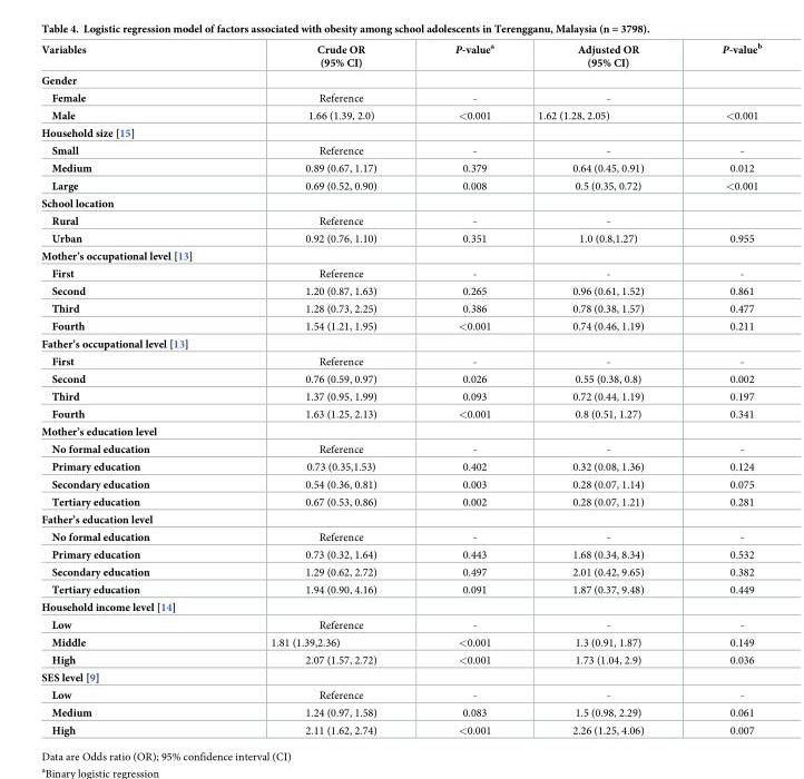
<table><thead><tr><td>Variables</td><td>Crude OR (95% CI)</td><td>P-value<sup>a</sup></td><td>Adjusted OR (95% CI)</td><td>P-value<sup>b</sup></td></tr></thead><tbody><tr><td colspan="5">Gender</td></tr><tr><td>Female</td><td>Reference</td><td>-</td><td>-</td><td></td></tr><tr><td>Male</td><td>1.66 (1.39, 2.0)</td><td>&lt;0.001</td><td>1.62 (1.28, 2.05)</td><td>&lt;0.001</td></tr><tr><td colspan="5">Household size [15]</td></tr><tr><td>Small</td><td>Reference</td><td>-</td><td>-</td><td>-</td></tr><tr><td>Medium</td><td>0.89 (0.67, 1.17)</td><td>0.379</td><td>0.64 (0.45, 0.91)</td><td>0.012</td></tr><tr><td>Large</td><td>0.69 (0.52, 0.90)</td><td>0.008</td><td>0.5 (0.35, 0.72)</td><td>&lt;0.001</td></tr><tr><td colspan="5">School location</td></tr><tr><td>Rural</td><td>Reference</td><td>-</td><td>-</td><td></td></tr><tr><td>Urban</td><td>0.92 (0.76, 1.10)</td><td>0.351</td><td>1.0 (0.8,1.27)</td><td>0.955</td></tr><tr><td colspan="5">Mother’s occupational level [13]</td></tr><tr><td>First</td><td>Reference</td><td>-</td><td>-</td><td>-</td></tr><tr><td>Second</td><td>1.20 (0.87, 1.63)</td><td>0.265</td><td>0.96 (0.61, 1.52)</td><td>0.861</td></tr><tr><td>Third</td><td>1.28 (0.73, 2.25)</td><td>0.386</td><td>0.78 (0.38, 1.57)</td><td>0.477</td></tr><tr><td>Fourth</td><td>1.54 (1.21, 1.95)</td><td>&lt;0.001</td><td>0.74 (0.46, 1.19)</td><td>0.211</td></tr><tr><td colspan="5">Father’s occupational level [13]</td></tr><tr><td>First</td><td>Reference</td><td>-</td><td>-</td><td>-</td></tr><tr><td>Second</td><td>0.76 (0.59, 0.97)</td><td>0.026</td><td>0.55 (0.38, 0.8)</td><td>0.002</td></tr><tr><td>Third</td><td>1.37 (0.95, 1.99)</td><td>0.093</td><td>0.72 (0.44, 1.19)</td><td>0.197</td></tr><tr><td>Fourth</td><td>1.63 (1.25, 2.13)</td><td>&lt;0.001</td><td>0.8 (0.51, 1.27)</td><td>0.341</td></tr><tr><td colspan="5">Mother’s education level</td></tr><tr><td>No formal education</td><td>Reference</td><td>-</td><td>-</td><td>-</td></tr><tr><td>Primary education</td><td>0.73 (0.35,1.53)</td><td>0.402</td><td>0.32 (0.08, 1.36)</td><td>0.124</td></tr><tr><td>Secondary education</td><td>0.54 (0.36, 0.81)</td><td>0.003</td><td>0.28 (0.07, 1.14)</td><td>0.075</td></tr><tr><td>Tertiary education</td><td>0.67 (0.53, 0.86)</td><td>0.002</td><td>0.28 (0.07, 1.21)</td><td>0.281</td></tr><tr><td colspan="5">Father’s education level</td></tr><tr><td>No formal education</td><td>Reference</td><td>-</td><td>-</td><td>-</td></tr><tr><td>Primary education</td><td>0.73 (0.32, 1.64)</td><td>0.443</td><td>1.68 (0.34, 8.34)</td><td>0.532</td></tr><tr><td>Secondary education</td><td>1.29 (0.62, 2.72)</td><td>0.497</td><td>2.01 (0.42, 9.65)</td><td>0.382</td></tr><tr><td>Tertiary education</td><td>1.94 (0.90, 4.16)</td><td>0.091</td><td>1.87 (0.37, 9.48)</td><td>0.449</td></tr><tr><td colspan="5">Household income level [14]</td></tr><tr><td>Low</td><td>Reference</td><td>-</td><td>-</td><td>-</td></tr><tr><td>Middle</td><td>1.81 (1.39,2.36)</td><td>&lt;0.001</td><td>1.3 (0.91, 1.87)</td><td>0.149</td></tr><tr><td>High</td><td>2.07 (1.57, 2.72)</td><td>&lt;0.001</td><td>1.73 (1.04, 2.9)</td><td>0.036</td></tr><tr><td colspan="5">SES level [9]</td></tr><tr><td>Low</td><td>Reference</td><td>-</td><td>-</td><td>-</td></tr><tr><td>Medium</td><td>1.24 (0.97, 1.58)</td><td>0.083</td><td>1.5 (0.98, 2.29)</td><td>0.061</td></tr><tr><td>High</td><td>2.11 (1.62, 2.74)</td><td>&lt;0.001</td><td>2.26 (1.25, 4.06)</td><td>0.007</td></tr></tbody></table>